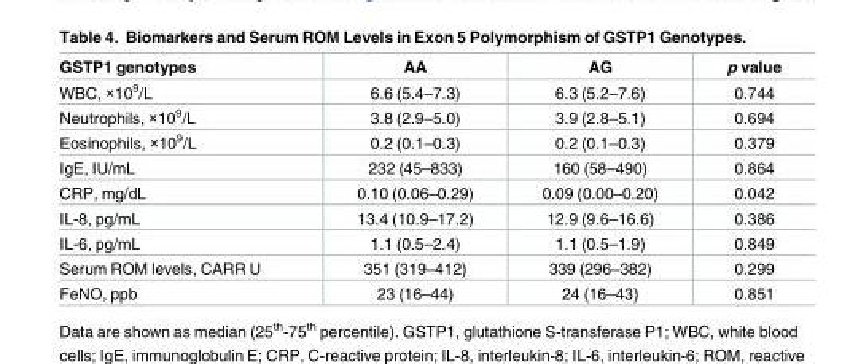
<table><thead><tr><td>GSTP1 genotypes</td><td>AA</td><td>AG</td><td>p value</td></tr></thead><tbody><tr><td>WBC, ×10<sup>9</sup>/L</td><td>6.6 (5.4–7.3)</td><td>6.3 (5.2–7.6)</td><td>0.744</td></tr><tr><td>Neutrophils, ×10<sup>9</sup>/L</td><td>3.8 (2.9–5.0)</td><td>3.9 (2.8–5.1)</td><td>0.694</td></tr><tr><td>Eosinophils, ×10<sup>9</sup>/L</td><td>0.2 (0.1–0.3)</td><td>0.2 (0.1–0.3)</td><td>0.379</td></tr><tr><td>IgE, IU/mL</td><td>232 (45–833)</td><td>160 (58–490)</td><td>0.864</td></tr><tr><td>CRP, mg/dL</td><td>0.10 (0.06–0.29)</td><td>0.09 (0.00–0.20)</td><td>0.042</td></tr><tr><td>IL-8, pg/mL</td><td>13.4 (10.9–17.2)</td><td>12.9 (9.6–16.6)</td><td>0.386</td></tr><tr><td>IL-6, pg/mL</td><td>1.1 (0.5–2.4)</td><td>1.1 (0.5–1.9)</td><td>0.849</td></tr><tr><td>Serum ROM levels, CARR U</td><td>351 (319–412)</td><td>339 (296–382)</td><td>0.299</td></tr><tr><td>FeNO, ppb</td><td>23 (16–44)</td><td>24 (16–43)</td><td>0.851</td></tr></tbody></table>